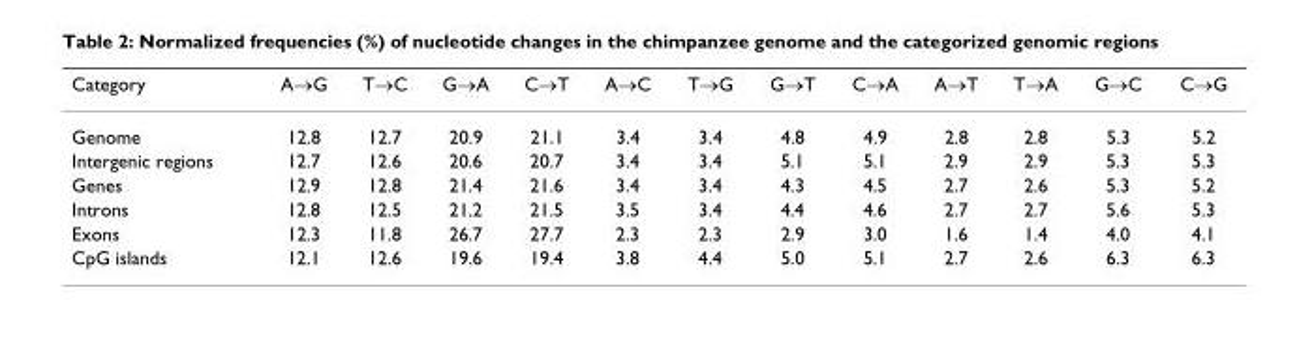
<table><thead><tr><td>Category</td><td>A→G</td><td>T→C</td><td>G→A</td><td>C→T</td><td>A→C</td><td>T→G</td><td>G→T</td><td>C→A</td><td>A→T</td><td>T→A</td><td>G→C</td><td>C→G</td></tr></thead><tbody><tr><td>Genome</td><td>12.8</td><td>12.7</td><td>20.9</td><td>21.1</td><td>3.4</td><td>3.4</td><td>4.8</td><td>4.9</td><td>2.8</td><td>2.8</td><td>5.3</td><td>5.2</td></tr><tr><td>Intergenic regions</td><td>12.7</td><td>12.6</td><td>20.6</td><td>20.7</td><td>3.4</td><td>3.4</td><td>5.1</td><td>5.1</td><td>2.9</td><td>2.9</td><td>5.3</td><td>5.3</td></tr><tr><td>Genes</td><td>12.9</td><td>12.8</td><td>21.4</td><td>21.6</td><td>3.4</td><td>3.4</td><td>4.3</td><td>4.5</td><td>2.7</td><td>2.6</td><td>5.3</td><td>5.2</td></tr><tr><td>Introns</td><td>12.8</td><td>12.5</td><td>21.2</td><td>21.5</td><td>3.5</td><td>3.4</td><td>4.4</td><td>4.6</td><td>2.7</td><td>2.7</td><td>5.6</td><td>5.3</td></tr><tr><td>Exons</td><td>12.3</td><td>11.8</td><td>26.7</td><td>27.7</td><td>2.3</td><td>2.3</td><td>2.9</td><td>3.0</td><td>1.6</td><td>1.4</td><td>4.0</td><td>4.1</td></tr><tr><td>CpG islands</td><td>12.1</td><td>12.6</td><td>19.6</td><td>19.4</td><td>3.8</td><td>4.4</td><td>5.0</td><td>5.1</td><td>2.7</td><td>2.6</td><td>6.3</td><td>6.3</td></tr></tbody></table>